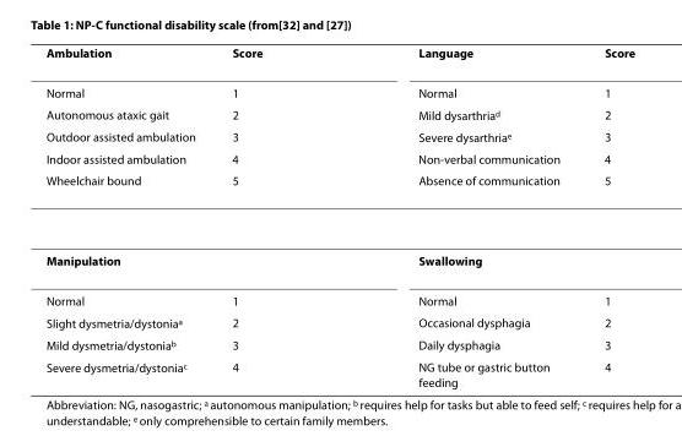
<table><thead><tr><td rowspan="6">Ambulation Normal Autonomous ataxic gait Outdoor assisted ambulation Indoor assisted ambulation Wheelchair bound</td><td rowspan="6">Score 1 2 3 4 5</td><td rowspan="6">Language Normal Mild dysarthriad Severe dysarthriae Non-verbal communication Absence of communication</td><td rowspan="6">Score 1 2 3 4 5</td></tr><tr></tr><tr></tr><tr></tr><tr></tr><tr></tr></thead><tbody><tr><td>Manipulation</td><td></td><td>Swallowing</td><td></td></tr><tr><td>Normal</td><td>1</td><td>Normal</td><td>1</td></tr><tr><td>Slight dysmetria/dystonia<sup>a</sup></td><td>2</td><td>Occasional dysphagia</td><td>2</td></tr><tr><td>Mild dysmetria/dystonia<sup>b</sup></td><td>3</td><td>Daily dysphagia</td><td>3</td></tr><tr><td>Severe dysmetria/dystonia<sup>c</sup></td><td>4</td><td>NG tube or gastric button feeding</td><td>4</td></tr></tbody></table>